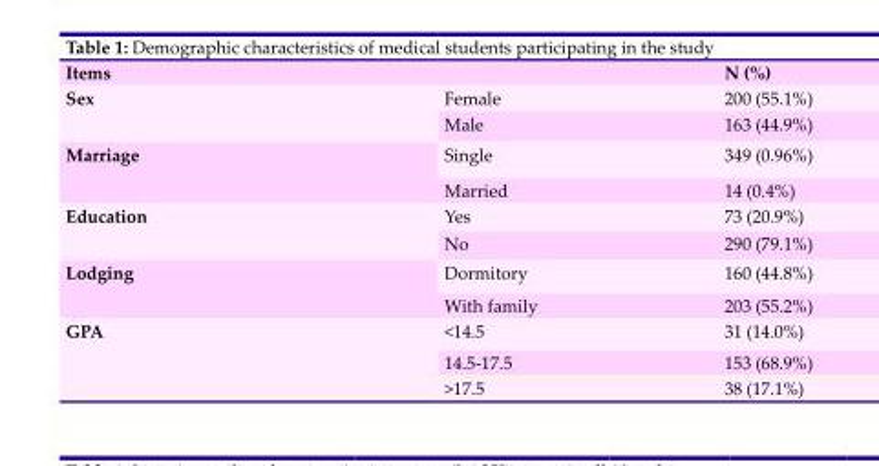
<table><thead><tr><td>Items</td><td></td><td>N (%)</td></tr></thead><tbody><tr><td rowspan="2">Sex</td><td>Female</td><td>200 (55.1%)</td></tr><tr><td>Male</td><td>163 (44.9%)</td></tr><tr><td rowspan="2">Marriage</td><td>Single</td><td>349 (0.96%)</td></tr><tr><td>Married</td><td>14 (0.4%)</td></tr><tr><td rowspan="2">Education</td><td>Yes</td><td>73 (20.9%)</td></tr><tr><td>No</td><td>290 (79.1%)</td></tr><tr><td rowspan="2">Lodging</td><td>Dormitory</td><td>160 (44.8%)</td></tr><tr><td>With family</td><td>203 (55.2%)</td></tr><tr><td rowspan="3">GPA</td><td>&lt;14.5</td><td>31 (14.0%)</td></tr><tr><td>14.5-17.5</td><td>153 (68.9%)</td></tr><tr><td>&gt;17.5</td><td>38 (17.1%)</td></tr></tbody></table>